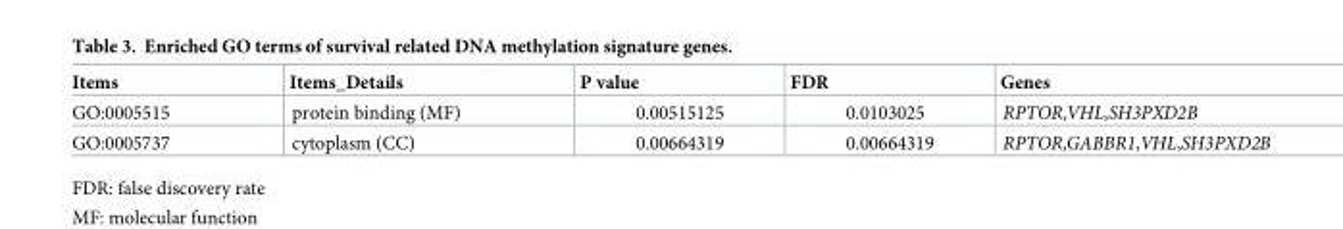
<table><thead><tr><td>Items</td><td>Items_Details</td><td>P value</td><td>FDR</td><td>Genes</td></tr></thead><tbody><tr><td>GO:0005515</td><td>protein binding (MF)</td><td>0.00515125</td><td>0.0103025</td><td>RPTOR,VHL,SH3PXD2B</td></tr><tr><td>GO:0005737</td><td>cytoplasm (CC)</td><td>0.00664319</td><td>0.00664319</td><td>RPTOR,GABBR1,VHL,SH3PXD2B</td></tr></tbody></table>